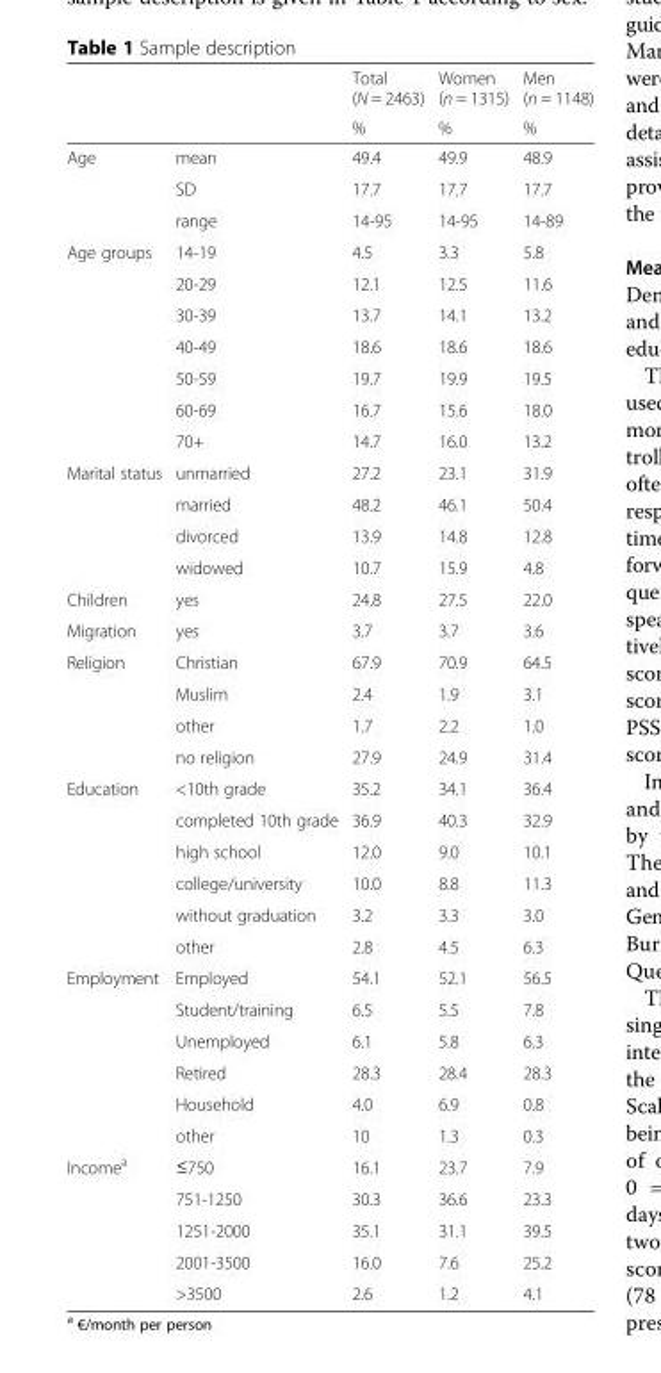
<table><thead><tr><td rowspan="2"></td><td rowspan="2"></td><td rowspan="2">Total (N = 2463) %</td><td rowspan="2">Women (n = 1315) %</td><td rowspan="2">Men (n = 1148) %</td></tr><tr></tr></thead><tbody><tr><td rowspan="3">Age</td><td>mean</td><td>49.4</td><td>49.9</td><td>48.9</td></tr><tr><td>SD</td><td>17.7</td><td>17.7</td><td>17.7</td></tr><tr><td>range</td><td>14-95</td><td>14-95</td><td>14-89</td></tr><tr><td rowspan="7">Age groups</td><td>14-19</td><td>4.5</td><td>3.3</td><td>5.8</td></tr><tr><td>20-29</td><td>12.1</td><td>12.5</td><td>11.6</td></tr><tr><td>30-39</td><td>13.7</td><td>14.1</td><td>13.2</td></tr><tr><td>40-49</td><td>18.6</td><td>18.6</td><td>18.6</td></tr><tr><td>50-59</td><td>19.7</td><td>19.9</td><td>19.5</td></tr><tr><td>60-69</td><td>16.7</td><td>15.6</td><td>18.0</td></tr><tr><td>70+</td><td>14.7</td><td>16.0</td><td>13.2</td></tr><tr><td rowspan="4">Marital status</td><td>unmarried</td><td>27.2</td><td>23.1</td><td>31.9</td></tr><tr><td>married</td><td>48.2</td><td>46.1</td><td>50.4</td></tr><tr><td>divorced</td><td>13.9</td><td>14.8</td><td>12.8</td></tr><tr><td>widowed</td><td>10.7</td><td>15.9</td><td>4.8</td></tr><tr><td>Children</td><td>yes</td><td>24.8</td><td>27.5</td><td>22.0</td></tr><tr><td>Migration</td><td>yes</td><td>3.7</td><td>3.7</td><td>3.6</td></tr><tr><td rowspan="4">Religion</td><td>Christian</td><td>67.9</td><td>70.9</td><td>64.5</td></tr><tr><td>Muslim</td><td>2.4</td><td>1.9</td><td>3.1</td></tr><tr><td>other</td><td>1.7</td><td>2.2</td><td>1.0</td></tr><tr><td>no religion</td><td>27.9</td><td>24.9</td><td>31.4</td></tr><tr><td rowspan="6">Education</td><td>&lt;10th grade</td><td>35.2</td><td>34.1</td><td>36.4</td></tr><tr><td>completed 10th grade</td><td>36.9</td><td>40.3</td><td>32.9</td></tr><tr><td>high school</td><td>12.0</td><td>9.0</td><td>10.1</td></tr><tr><td>college/university</td><td>10.0</td><td>8.8</td><td>11.3</td></tr><tr><td>without graduation</td><td>3.2</td><td>3.3</td><td>3.0</td></tr><tr><td>other</td><td>2.8</td><td>4.5</td><td>6.3</td></tr><tr><td rowspan="6">Employment</td><td>Employed</td><td>54.1</td><td>52.1</td><td>56.5</td></tr><tr><td>Student/training</td><td>6.5</td><td>5.5</td><td>7.8</td></tr><tr><td>Unemployed</td><td>6.1</td><td>5.8</td><td>6.3</td></tr><tr><td>Retired</td><td>28.3</td><td>28.4</td><td>28.3</td></tr><tr><td>Household</td><td>4.0</td><td>6.9</td><td>0.8</td></tr><tr><td>other</td><td>10</td><td>1.3</td><td>0.3</td></tr><tr><td rowspan="5">Income<sup>a</sup></td><td>≤750</td><td>16.1</td><td>23.7</td><td>7.9</td></tr><tr><td>751-1250</td><td>30.3</td><td>36.6</td><td>23.3</td></tr><tr><td>1251-2000</td><td>35.1</td><td>31.1</td><td>39.5</td></tr><tr><td>2001-3500</td><td>16.0</td><td>7.6</td><td>25.2</td></tr><tr><td>&gt;3500</td><td>2.6</td><td>1.2</td><td>4.1</td></tr></tbody></table>